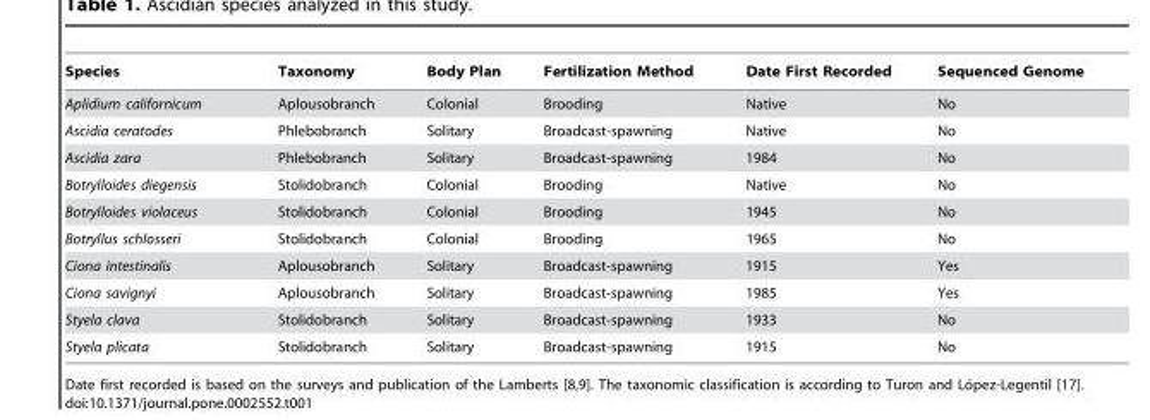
<table><thead><tr><td>Species</td><td>Taxonomy</td><td>Body Plan</td><td>Fertilization Method</td><td>Date First Recorded</td><td>Sequenced Genome</td></tr></thead><tbody><tr><td>Aplidium californicum</td><td>Aplousobranch</td><td>Colonial</td><td>Brooding</td><td>Native</td><td>No</td></tr><tr><td>Ascidia ceratodes</td><td>Phlebobranch</td><td>Solitary</td><td>Broadcast-spawning</td><td>Native</td><td>No</td></tr><tr><td>Ascidia zara</td><td>Phlebobranch</td><td>Solitary</td><td>Broadcast-spawning</td><td>1984</td><td>No</td></tr><tr><td>Botrylloides diegensis</td><td>Stolidobranch</td><td>Colonial</td><td>Brooding</td><td>Native</td><td>No</td></tr><tr><td>Botrylloides violaceus</td><td>Stolidobranch</td><td>Colonial</td><td>Brooding</td><td>1945</td><td>No</td></tr><tr><td>Botryllus schlosseri</td><td>Stolidobranch</td><td>Colonial</td><td>Brooding</td><td>1965</td><td>No</td></tr><tr><td>Ciona intestinalis</td><td>Aplousobranch</td><td>Solitary</td><td>Broadcast-spawning</td><td>1915</td><td>Yes</td></tr><tr><td>Ciona savignyi</td><td>Aplousobranch</td><td>Solitary</td><td>Broadcast-spawning</td><td>1985</td><td>Yes</td></tr><tr><td>Styela clava</td><td>Stolidobranch</td><td>Solitary</td><td>Broadcast-spawning</td><td>1933</td><td>No</td></tr><tr><td>Styela plicata</td><td>Stolidobranch</td><td>Solitary</td><td>Broadcast-spawning</td><td>1915</td><td>No</td></tr></tbody></table>